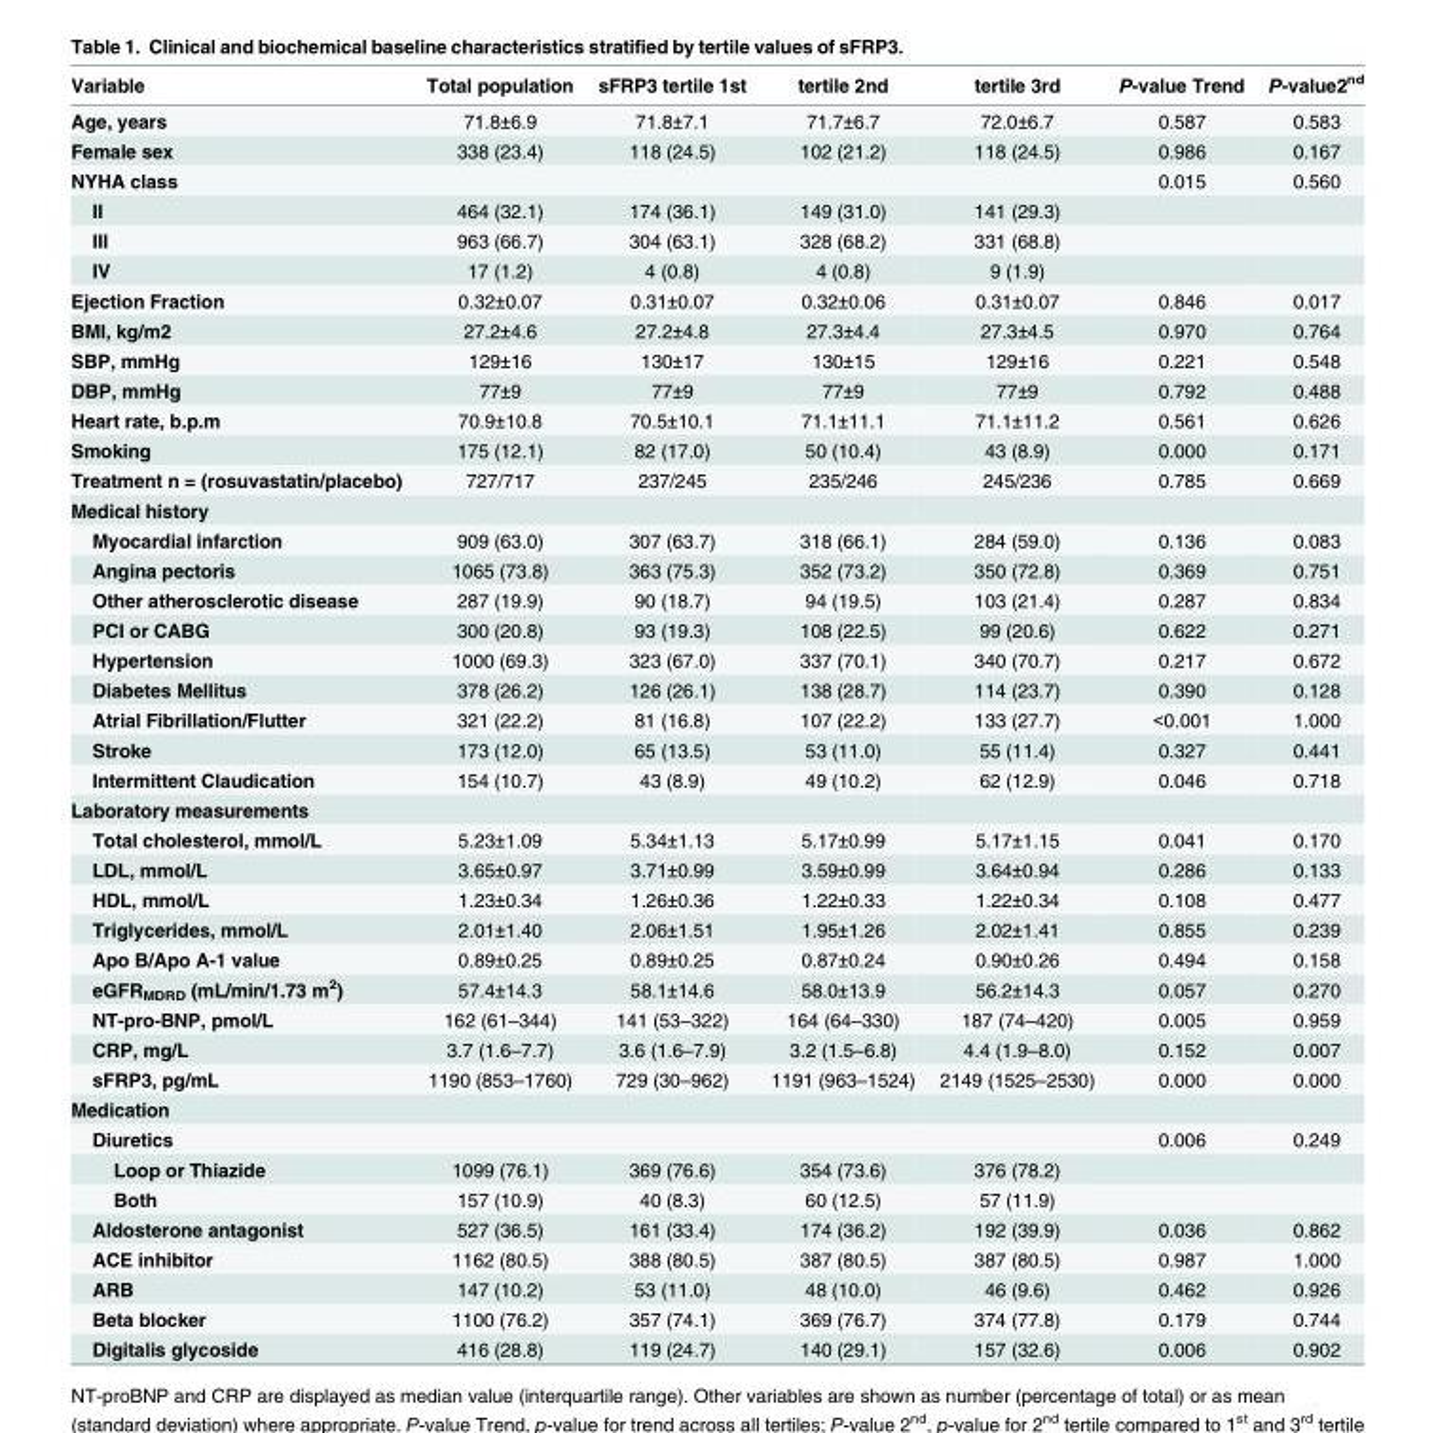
<table><thead><tr><td>Variable</td><td>Total population</td><td>sFRP3 tertile 1st</td><td>tertile 2nd</td><td>tertile 3rd</td><td>P-value Trend</td><td>P-value2<sup>nd</sup></td></tr></thead><tbody><tr><td>Age, years</td><td>71.8±6.9</td><td>71.8±7.1</td><td>71.7±6.7</td><td>72.0±6.7</td><td>0.587</td><td>0.583</td></tr><tr><td>Female sex</td><td>338 (23.4)</td><td>118 (24.5)</td><td>102 (21.2)</td><td>118 (24.5)</td><td>0.986</td><td>0.167</td></tr><tr><td>NYHA class</td><td></td><td></td><td></td><td></td><td>0.015</td><td>0.560</td></tr><tr><td>II</td><td>464 (32.1)</td><td>174 (36.1)</td><td>149 (31.0)</td><td>141 (29.3)</td><td></td><td></td></tr><tr><td>III</td><td>963 (66.7)</td><td>304 (63.1)</td><td>328 (68.2)</td><td>331 (68.8)</td><td></td><td></td></tr><tr><td>IV</td><td>17 (1.2)</td><td>4 (0.8)</td><td>4 (0.8)</td><td>9 (1.9)</td><td></td><td></td></tr><tr><td>Ejection Fraction</td><td>0.32±0.07</td><td>0.31±0.07</td><td>0.32±0.06</td><td>0.31±0.07</td><td>0.846</td><td>0.017</td></tr><tr><td>BMI, kg/m2</td><td>27.2±4.6</td><td>27.2±4.8</td><td>27.3±4.4</td><td>27.3±4.5</td><td>0.970</td><td>0.764</td></tr><tr><td>SBP, mmHg</td><td>129±16</td><td>130±17</td><td>130±15</td><td>129±16</td><td>0.221</td><td>0.548</td></tr><tr><td>DBP, mmHg</td><td>77±9</td><td>77±9</td><td>77±9</td><td>77±9</td><td>0.792</td><td>0.488</td></tr><tr><td>Heart rate, b.p.m</td><td>70.9±10.8</td><td>70.5±10.1</td><td>71.1±11.1</td><td>71.1±11.2</td><td>0.561</td><td>0.626</td></tr><tr><td>Smoking</td><td>175 (12.1)</td><td>82 (17.0)</td><td>50 (10.4)</td><td>43 (8.9)</td><td>0.000</td><td>0.171</td></tr><tr><td>Treatment n = (rosuvastatin/placebo)</td><td>727/717</td><td>237/245</td><td>235/246</td><td>245/236</td><td>0.785</td><td>0.669</td></tr><tr><td colspan="7">Medical history</td></tr><tr><td>Myocardial infarction</td><td>909 (63.0)</td><td>307 (63.7)</td><td>318 (66.1)</td><td>284 (59.0)</td><td>0.136</td><td>0.083</td></tr><tr><td>Angina pectoris</td><td>1065 (73.8)</td><td>363 (75.3)</td><td>352 (73.2)</td><td>350 (72.8)</td><td>0.369</td><td>0.751</td></tr><tr><td>Other atherosclerotic disease</td><td>287 (19.9)</td><td>90 (18.7)</td><td>94 (19.5)</td><td>103 (21.4)</td><td>0.287</td><td>0.834</td></tr><tr><td>PCI or CABG</td><td>300 (20.8)</td><td>93 (19.3)</td><td>108 (22.5)</td><td>99 (20.6)</td><td>0.622</td><td>0.271</td></tr><tr><td>Hypertension</td><td>1000 (69.3)</td><td>323 (67.0)</td><td>337 (70.1)</td><td>340 (70.7)</td><td>0.217</td><td>0.672</td></tr><tr><td>Diabetes Mellitus</td><td>378 (26.2)</td><td>126 (26.1)</td><td>138 (28.7)</td><td>114 (23.7)</td><td>0.390</td><td>0.128</td></tr><tr><td>Atrial Fibrillation/Flutter</td><td>321 (22.2)</td><td>81 (16.8)</td><td>107 (22.2)</td><td>133 (27.7)</td><td>&lt;0.001</td><td>1.000</td></tr><tr><td>Stroke</td><td>173 (12.0)</td><td>65 (13.5)</td><td>53 (11.0)</td><td>55 (11.4)</td><td>0.327</td><td>0.441</td></tr><tr><td>Intermittent Claudication</td><td>154 (10.7)</td><td>43 (8.9)</td><td>49 (10.2)</td><td>62 (12.9)</td><td>0.046</td><td>0.718</td></tr><tr><td colspan="7">Laboratory measurements</td></tr><tr><td>Total cholesterol, mmol/L</td><td>5.23±1.09</td><td>5.34±1.13</td><td>5.17±0.99</td><td>5.17±1.15</td><td>0.041</td><td>0.170</td></tr><tr><td>LDL, mmol/L</td><td>3.65±0.97</td><td>3.71±0.99</td><td>3.59±0.99</td><td>3.64±0.94</td><td>0.286</td><td>0.133</td></tr><tr><td>HDL, mmol/L</td><td>1.23±0.34</td><td>1.26±0.36</td><td>1.22±0.33</td><td>1.22±0.34</td><td>0.108</td><td>0.477</td></tr><tr><td>Triglycerides, mmol/L</td><td>2.01±1.40</td><td>2.06±1.51</td><td>1.95±1.26</td><td>2.02±1.41</td><td>0.855</td><td>0.239</td></tr><tr><td>Apo B/Apo A-1 value</td><td>0.89±0.25</td><td>0.89±0.25</td><td>0.87±0.24</td><td>0.90±0.26</td><td>0.494</td><td>0.158</td></tr><tr><td>eGFR<sub>MDRD</sub> (mL/min/1.73 m<sup>2</sup>)</td><td>57.4±14.3</td><td>58.1±14.6</td><td>58.0±13.9</td><td>56.2±14.3</td><td>0.057</td><td>0.270</td></tr><tr><td>NT-pro-BNP, pmol/L</td><td>162 (61–344)</td><td>141 (53–322)</td><td>164 (64–330)</td><td>187 (74–420)</td><td>0.005</td><td>0.959</td></tr><tr><td>CRP, mg/L</td><td>3.7 (1.6–7.7)</td><td>3.6 (1.6–7.9)</td><td>3.2 (1.5–6.8)</td><td>4.4 (1.9–8.0)</td><td>0.152</td><td>0.007</td></tr><tr><td>sFRP3, pg/mL</td><td>1190 (853–1760)</td><td>729 (30–962)</td><td>1191 (963–1524)</td><td>2149 (1525–2530)</td><td>0.000</td><td>0.000</td></tr><tr><td colspan="7">Medication</td></tr><tr><td>Diuretics</td><td></td><td></td><td></td><td></td><td>0.006</td><td>0.249</td></tr><tr><td>Loop or Thiazide</td><td>1099 (76.1)</td><td>369 (76.6)</td><td>354 (73.6)</td><td>376 (78.2)</td><td></td><td></td></tr><tr><td>Both</td><td>157 (10.9)</td><td>40 (8.3)</td><td>60 (12.5)</td><td>57 (11.9)</td><td></td><td></td></tr><tr><td>Aldosterone antagonist</td><td>527 (36.5)</td><td>161 (33.4)</td><td>174 (36.2)</td><td>192 (39.9)</td><td>0.036</td><td>0.862</td></tr><tr><td>ACE inhibitor</td><td>1162 (80.5)</td><td>388 (80.5)</td><td>387 (80.5)</td><td>387 (80.5)</td><td>0.987</td><td>1.000</td></tr><tr><td>ARB</td><td>147 (10.2)</td><td>53 (11.0)</td><td>48 (10.0)</td><td>46 (9.6)</td><td>0.462</td><td>0.926</td></tr><tr><td>Beta blocker</td><td>1100 (76.2)</td><td>357 (74.1)</td><td>369 (76.7)</td><td>374 (77.8)</td><td>0.179</td><td>0.744</td></tr><tr><td>Digitalis glycoside</td><td>416 (28.8)</td><td>119 (24.7)</td><td>140 (29.1)</td><td>157 (32.6)</td><td>0.006</td><td>0.902</td></tr></tbody></table>